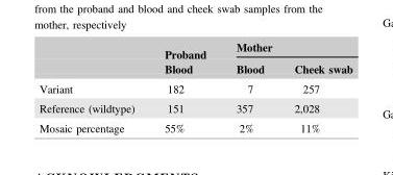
<table><thead><tr><td rowspan="2"></td><td rowspan="2">Proband Blood</td><td colspan="2">Mother</td></tr><tr><td>Blood</td><td>Cheek swab</td></tr></thead><tbody><tr><td>Variant</td><td>182</td><td>7</td><td>257</td></tr><tr><td>Reference (wildtype)</td><td>151</td><td>357</td><td>2,028</td></tr><tr><td>Mosaic percentage</td><td>55%</td><td>2%</td><td>11%</td></tr></tbody></table>